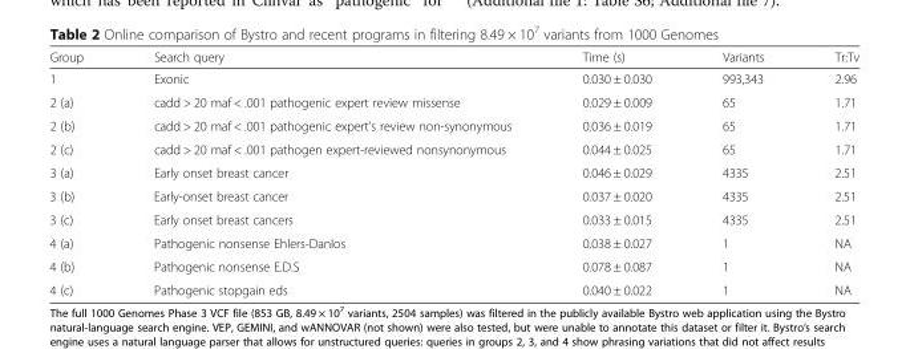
<table><thead><tr><td>Group</td><td>Search query</td><td>Time (s)</td><td>Variants</td><td>Tr:Tv</td></tr></thead><tbody><tr><td>1</td><td>Exonic</td><td>0.030 ± 0.030</td><td>993,343</td><td>2.96</td></tr><tr><td>2 (a)</td><td>cadd &gt; 20 maf &lt; .001 pathogenic expert review missense</td><td>0.029 ± 0.009</td><td>65</td><td>1.71</td></tr><tr><td>2 (b)</td><td>cadd &gt; 20 maf &lt; .001 pathogenic expert’s review non-synonymous</td><td>0.036 ± 0.019</td><td>65</td><td>1.71</td></tr><tr><td>2 (c)</td><td>cadd &gt; 20 maf &lt; .001 pathogen expert-reviewed nonsynonymous</td><td>0.044 ± 0.025</td><td>65</td><td>1.71</td></tr><tr><td>3 (a)</td><td>Early onset breast cancer</td><td>0.046 ± 0.029</td><td>4335</td><td>2.51</td></tr><tr><td>3 (b)</td><td>Early-onset breast cancer</td><td>0.037 ± 0.020</td><td>4335</td><td>2.51</td></tr><tr><td>3 (c)</td><td>Early onset breast cancers</td><td>0.033 ± 0.015</td><td>4335</td><td>2.51</td></tr><tr><td>4 (a)</td><td>Pathogenic nonsense Ehlers-Danlos</td><td>0.038 ± 0.027</td><td>1</td><td>NA</td></tr><tr><td>4 (b)</td><td>Pathogenic nonsense E.D.S</td><td>0.078 ± 0.087</td><td>1</td><td>NA</td></tr><tr><td>4 (c)</td><td>Pathogenic stopgain eds</td><td>0.040 ± 0.022</td><td>1</td><td>NA</td></tr></tbody></table>